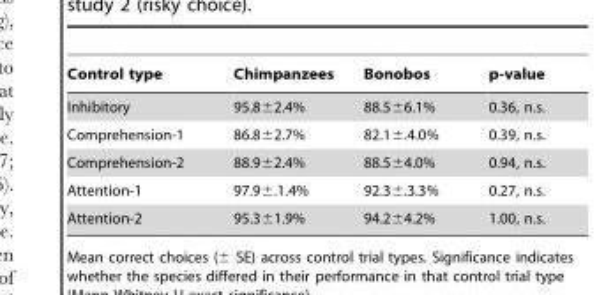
<table><thead><tr><td>Control type</td><td>Chimpanzees</td><td>Bonobos</td><td>p-value</td></tr></thead><tbody><tr><td>Inhibitory</td><td>95.8±2.4%</td><td>88.5±6.1%</td><td>0.36, n.s.</td></tr><tr><td>Comprehension-1</td><td>86.8±2.7%</td><td>82.1±.4.0%</td><td>0.39, n.s.</td></tr><tr><td>Comprehension-2</td><td>88.9±2.4%</td><td>88.5±4.0%</td><td>0.94, n.s.</td></tr><tr><td>Attention-1</td><td>97.9±.1.4%</td><td>92.3±.3.3%</td><td>0.27, n.s.</td></tr><tr><td>Attention-2</td><td>95.3±1.9%</td><td>94.2±4.2%</td><td>1.00, n.s.</td></tr></tbody></table>